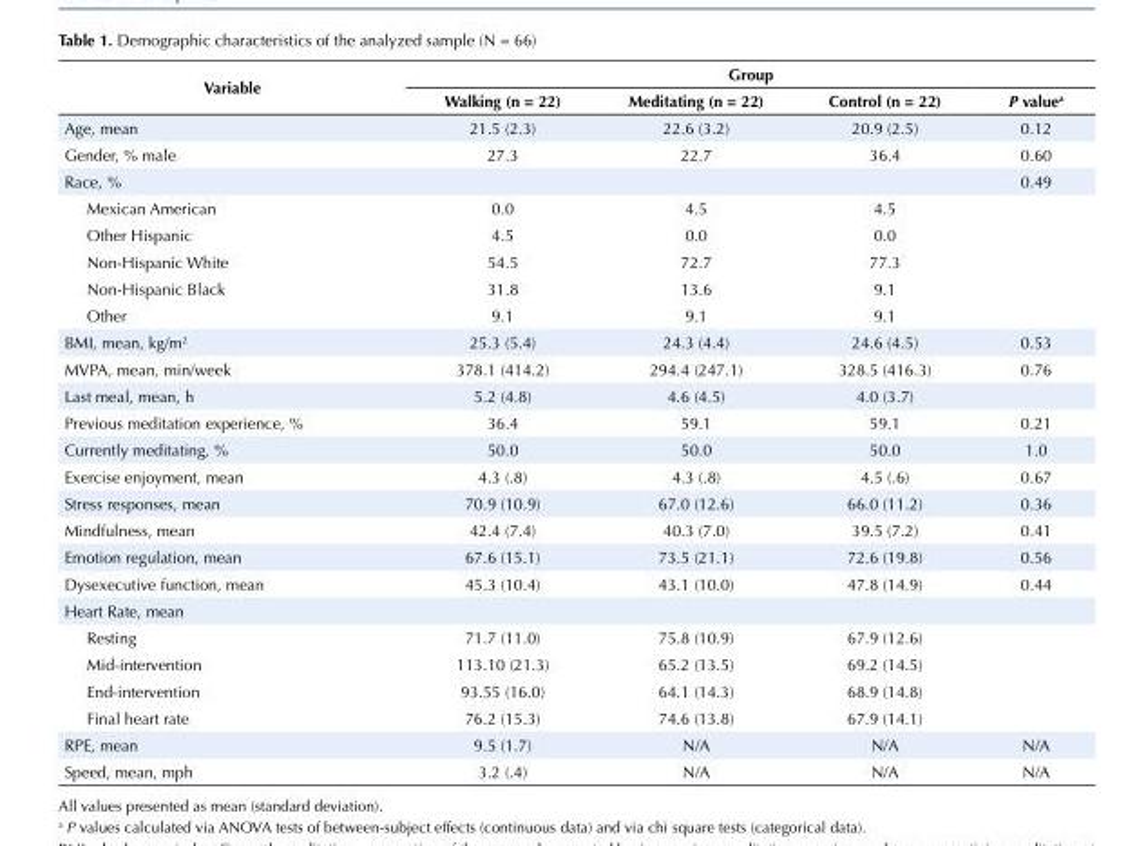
<table><tbody><tr><td rowspan="2">Variable</td><td colspan="4">Group</td></tr><tr><td>Walking (n = 22)</td><td>Meditating (n = 22)</td><td>Control (n = 22)</td><td>P value<sup>a</sup></td></tr><tr><td>Age, mean</td><td>21.5 (2.3)</td><td>22.6 (3.2)</td><td>20.9 (2.5)</td><td>0.12</td></tr><tr><td>Gender, % male</td><td>27.3</td><td>22.7</td><td>36.4</td><td>0.60</td></tr><tr><td>Race, %</td><td></td><td></td><td></td><td>0.49</td></tr><tr><td>Mexican American</td><td>0.0</td><td>4.5</td><td>4.5</td><td></td></tr><tr><td>Other Hispanic</td><td>4.5</td><td>0.0</td><td>0.0</td><td></td></tr><tr><td>Non-Hispanic White</td><td>54.5</td><td>72.7</td><td>77.3</td><td></td></tr><tr><td>Non-Hispanic Black</td><td>31.8</td><td>13.6</td><td>9.1</td><td></td></tr><tr><td>Other</td><td>9.1</td><td>9.1</td><td>9.1</td><td></td></tr><tr><td>BMI, mean, kg/m<sup>2</sup></td><td>25.3 (5.4)</td><td>24.3 (4.4)</td><td>24.6 (4.5)</td><td>0.53</td></tr><tr><td>MVPA, mean, min/week</td><td>378.1 (414.2)</td><td>294.4 (247.1)</td><td>328.5 (416.3)</td><td>0.76</td></tr><tr><td>Last meal, mean, h</td><td>5.2 (4.8)</td><td>4.6 (4.5)</td><td>4.0 (3.7)</td><td></td></tr><tr><td>Previous meditation experience, %</td><td>36.4</td><td>59.1</td><td>59.1</td><td>0.21</td></tr><tr><td>Currently meditating, %</td><td>50.0</td><td>50.0</td><td>50.0</td><td>1.0</td></tr><tr><td>Exercise enjoyment, mean</td><td>4.3 (.8)</td><td>4.3 (.8)</td><td>4.5 (.6)</td><td>0.67</td></tr><tr><td>Stress responses, mean</td><td>70.9 (10.9)</td><td>67.0 (12.6)</td><td>66.0 (11.2)</td><td>0.36</td></tr><tr><td>Mindfulness, mean</td><td>42.4 (7.4)</td><td>40.3 (7.0)</td><td>39.5 (7.2)</td><td>0.41</td></tr><tr><td>Emotion regulation, mean</td><td>67.6 (15.1)</td><td>73.5 (21.1)</td><td>72.6 (19.8)</td><td>0.56</td></tr><tr><td>Dysexecutive function, mean</td><td>45.3 (10.4)</td><td>43.1 (10.0)</td><td>47.8 (14.9)</td><td>0.44</td></tr><tr><td colspan="5">Heart Rate, mean</td></tr><tr><td>Resting</td><td>71.7 (11.0)</td><td>75.8 (10.9)</td><td>67.9 (12.6)</td><td></td></tr><tr><td>Mid-intervention</td><td>113.10 (21.3)</td><td>65.2 (13.5)</td><td>69.2 (14.5)</td><td></td></tr><tr><td>End-intervention</td><td>93.55 (16.0)</td><td>64.1 (14.3)</td><td>68.9 (14.8)</td><td></td></tr><tr><td>Final heart rate</td><td>76.2 (15.3)</td><td>74.6 (13.8)</td><td>67.9 (14.1)</td><td></td></tr><tr><td>RPE, mean</td><td>9.5 (1.7)</td><td>N/A</td><td>N/A</td><td>N/A</td></tr><tr><td>Speed, mean, mph</td><td>3.2 (.4)</td><td>N/A</td><td>N/A</td><td>N/A</td></tr></tbody></table>